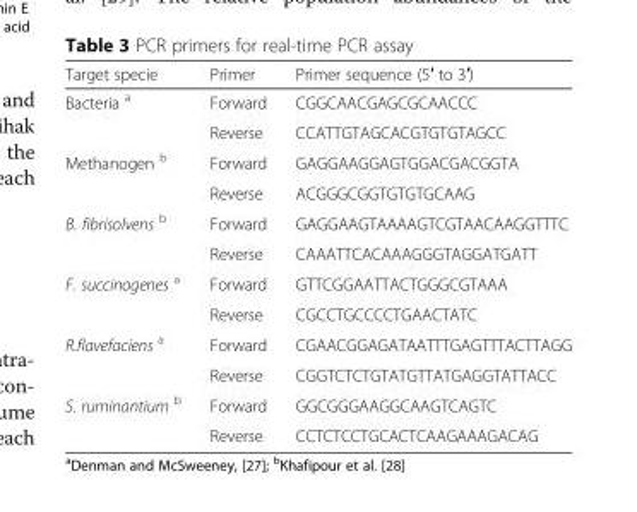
<table><thead><tr><td>Target specie</td><td>Primer</td><td>Primer sequence (5′ to 3′)</td></tr></thead><tbody><tr><td rowspan="2">Bacteria <sup>a</sup></td><td>Forward</td><td>CGGCAACGAGCGCAACCC</td></tr><tr><td>Reverse</td><td>CCATTGTAGCACGTGTGTAGCC</td></tr><tr><td rowspan="2">Methanogen <sup>b</sup></td><td>Forward</td><td>GAGGAAGGAGTGGACGACGGTA</td></tr><tr><td>Reverse</td><td>ACGGGCGGTGTGTGCAAG</td></tr><tr><td rowspan="2">B. fibrisolvens <sup>b</sup></td><td>Forward</td><td>GAGGAAGTAAAAGTCGTAACAAGGTTTC</td></tr><tr><td>Reverse</td><td>CAAATTCACAAAGGGTAGGATGATT</td></tr><tr><td rowspan="2">F. succinogenes <sup>a</sup></td><td>Forward</td><td>GTTCGGAATTACTGGGCGTAAA</td></tr><tr><td>Reverse</td><td>CGCCTGCCCCTGAACTATC</td></tr><tr><td rowspan="2">R.flavefaciens <sup>a</sup></td><td>Forward</td><td>CGAACGGAGATAATTTGAGTTTACTTAGG</td></tr><tr><td>Reverse</td><td>CGGTCTCTGTATGTTATGAGGTATTACC</td></tr><tr><td rowspan="2">S. ruminantium <sup>b</sup></td><td>Forward</td><td>GGCGGGAAGGCAAGTCAGTC</td></tr><tr><td>Reverse</td><td>CCTCTCCTGCACTCAAGAAAGACAG</td></tr></tbody></table>